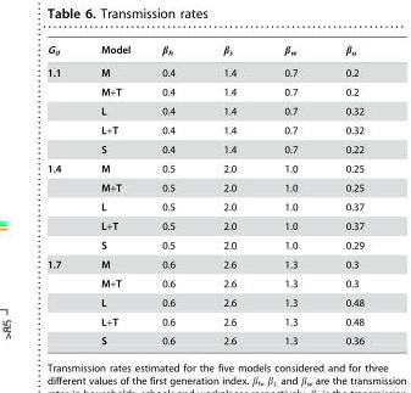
<table><thead><tr><td>G<sub>0</sub></td><td>Model</td><td>β<sub>h</sub></td><td>β<sub>s</sub></td><td>β<sub>w</sub></td><td>β<sub>u</sub></td></tr></thead><tbody><tr><td rowspan="5">1.1</td><td>M</td><td>0.4</td><td>1.4</td><td>0.7</td><td>0.2</td></tr><tr><td>M+T</td><td>0.4</td><td>1.4</td><td>0.7</td><td>0.2</td></tr><tr><td>L</td><td>0.4</td><td>1.4</td><td>0.7</td><td>0.32</td></tr><tr><td>L+T</td><td>0.4</td><td>1.4</td><td>0.7</td><td>0.32</td></tr><tr><td>S</td><td>0.4</td><td>1.4</td><td>0.7</td><td>0.22</td></tr><tr><td rowspan="5">1.4</td><td>M</td><td>0.5</td><td>2.0</td><td>1.0</td><td>0.25</td></tr><tr><td>M+T</td><td>0.5</td><td>2.0</td><td>1.0</td><td>0.25</td></tr><tr><td>L</td><td>0.5</td><td>2.0</td><td>1.0</td><td>0.37</td></tr><tr><td>L+T</td><td>0.5</td><td>2.0</td><td>1.0</td><td>0.37</td></tr><tr><td>S</td><td>0.5</td><td>2.0</td><td>1.0</td><td>0.29</td></tr><tr><td rowspan="5">1.7</td><td>M</td><td>0.6</td><td>2.6</td><td>1.3</td><td>0.3</td></tr><tr><td>M+T</td><td>0.6</td><td>2.6</td><td>1.3</td><td>0.3</td></tr><tr><td>L</td><td>0.6</td><td>2.6</td><td>1.3</td><td>0.48</td></tr><tr><td>L+T</td><td>0.6</td><td>2.6</td><td>1.3</td><td>0.48</td></tr><tr><td>S</td><td>0.6</td><td>2.6</td><td>1.3</td><td>0.36</td></tr></tbody></table>